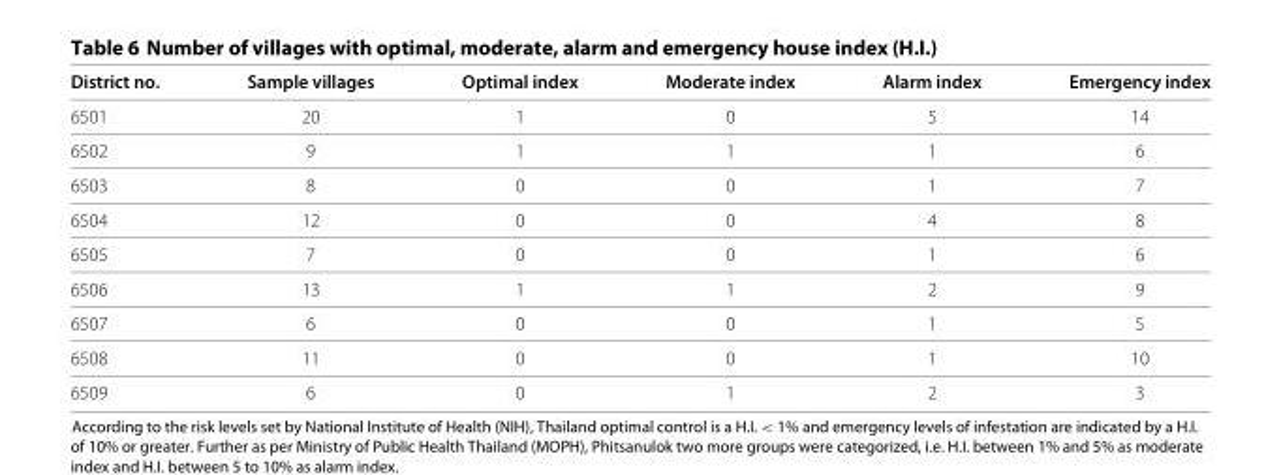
<table><thead><tr><td>District no.</td><td>Sample villages</td><td>Optimal index</td><td>Moderate index</td><td>Alarm index</td><td>Emergency index</td></tr></thead><tbody><tr><td>6501</td><td>20</td><td>1</td><td>0</td><td>5</td><td>14</td></tr><tr><td>6502</td><td>9</td><td>1</td><td>1</td><td>1</td><td>6</td></tr><tr><td>6503</td><td>8</td><td>0</td><td>0</td><td>1</td><td>7</td></tr><tr><td>6504</td><td>12</td><td>0</td><td>0</td><td>4</td><td>8</td></tr><tr><td>6505</td><td>7</td><td>0</td><td>0</td><td>1</td><td>6</td></tr><tr><td>6506</td><td>13</td><td>1</td><td>1</td><td>2</td><td>9</td></tr><tr><td>6507</td><td>6</td><td>0</td><td>0</td><td>1</td><td>5</td></tr><tr><td>6508</td><td>11</td><td>0</td><td>0</td><td>1</td><td>10</td></tr><tr><td>6509</td><td>6</td><td>0</td><td>1</td><td>2</td><td>3</td></tr></tbody></table>